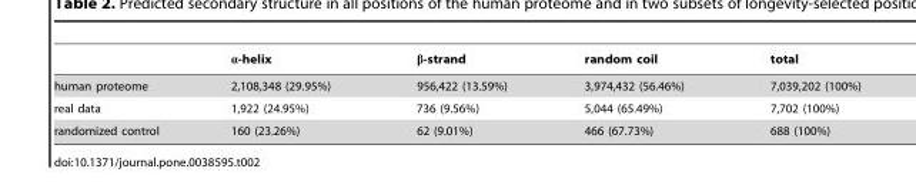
<table><thead><tr><td></td><td>α-helix</td><td>β-strand</td><td>random coil</td><td>total</td></tr></thead><tbody><tr><td>human proteome</td><td>2,108,348 (29.95%)</td><td>956,422 (13.59%)</td><td>3,974,432 (56.46%)</td><td>7,039,202 (100%)</td></tr><tr><td>real data</td><td>1,922 (24.95%)</td><td>736 (9.56%)</td><td>5,044 (65.49%)</td><td>7,702 (100%)</td></tr><tr><td>randomized control</td><td>160 (23.26%)</td><td>62 (9.01%)</td><td>466 (67.73%)</td><td>688 (100%)</td></tr></tbody></table>